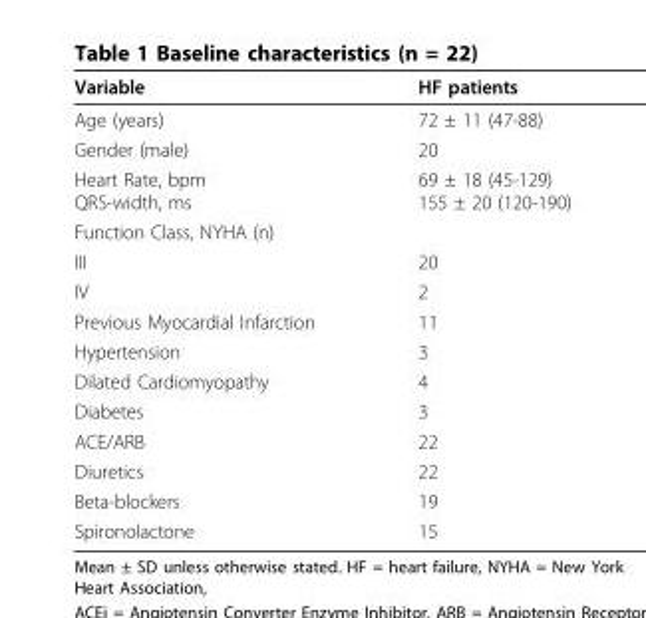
<table><thead><tr><td>Variable</td><td>HF patients</td></tr></thead><tbody><tr><td>Age (years)</td><td>72 ± 11 (47-88)</td></tr><tr><td>Gender (male)</td><td>20</td></tr><tr><td>Heart Rate, bpm QRS-width, ms</td><td>69 ± 18 (45-129) 155 ± 20 (120-190)</td></tr><tr><td colspan="2">Function Class, NYHA (n)</td></tr><tr><td>III</td><td>20</td></tr><tr><td>IV</td><td>2</td></tr><tr><td>Previous Myocardial Infarction</td><td>11</td></tr><tr><td>Hypertension</td><td>3</td></tr><tr><td>Dilated Cardiomyopathy</td><td>4</td></tr><tr><td>Diabetes</td><td>3</td></tr><tr><td>ACE/ARB</td><td>22</td></tr><tr><td>Diuretics</td><td>22</td></tr><tr><td>Beta-blockers</td><td>19</td></tr><tr><td>Spironolactone</td><td>15</td></tr></tbody></table>